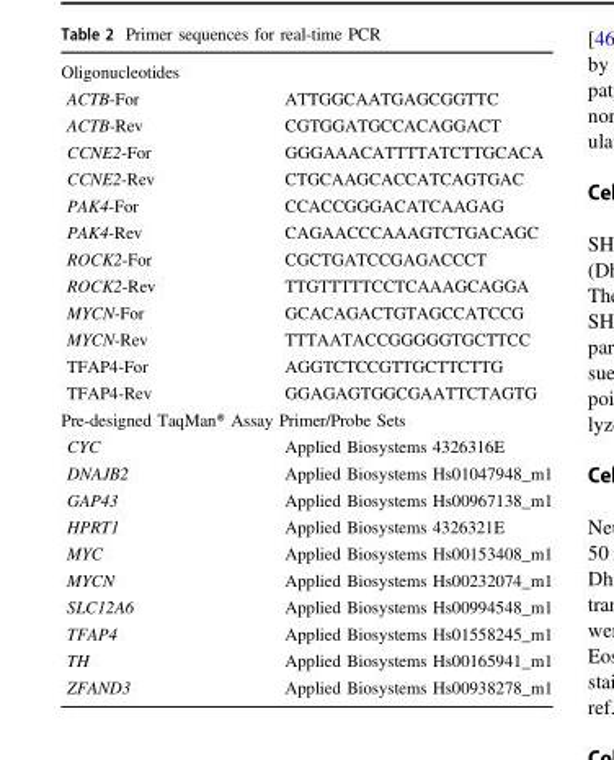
<table><tbody><tr><td colspan="2">Oligonucleotides</td></tr><tr><td>ACTB-For</td><td>ATTGGCAATGAGCGGTTC</td></tr><tr><td>ACTB-Rev</td><td>CGTGGATGCCACAGGACT</td></tr><tr><td>CCNE2-For</td><td>GGGAAACATTTTATCTTGCACA</td></tr><tr><td>CCNE2-Rev</td><td>CTGCAAGCACCATCAGTGAC</td></tr><tr><td>PAK4-For</td><td>CCACCGGGACATCAAGAG</td></tr><tr><td>PAK4-Rev</td><td>CAGAACCCAAAGTCTGACAGC</td></tr><tr><td>ROCK2-For</td><td>CGCTGATCCGAGACCCT</td></tr><tr><td>ROCK2-Rev</td><td>TTGTTTTTCCTCAAAGCAGGA</td></tr><tr><td>MYCN-For</td><td>GCACAGACTGTAGCCATCCG</td></tr><tr><td>MYCN-Rev</td><td>TTTAATACCGGGGGTGCTTCC</td></tr><tr><td>TFAP4-For</td><td>AGGTCTCCGTTGCTTCTTG</td></tr><tr><td>TFAP4-Rev</td><td>GGAGAGTGGCGAATTCTAGTG</td></tr><tr><td colspan="2">Pre-designed TaqMan® Assay Primer/Probe Sets</td></tr><tr><td>CYC</td><td>Applied Biosystems 4326316E</td></tr><tr><td>DNAJB2</td><td>Applied Biosystems Hs01047948_m1</td></tr><tr><td>GAP43</td><td>Applied Biosystems Hs00967138_m1</td></tr><tr><td>HPRT1</td><td>Applied Biosystems 4326321E</td></tr><tr><td>MYC</td><td>Applied Biosystems Hs00153408_m1</td></tr><tr><td>MYCN</td><td>Applied Biosystems Hs00232074_m1</td></tr><tr><td>SLC12A6</td><td>Applied Biosystems Hs00994548_m1</td></tr><tr><td>TFAP4</td><td>Applied Biosystems Hs01558245_m1</td></tr><tr><td>TH</td><td>Applied Biosystems Hs00165941_m1</td></tr><tr><td>ZFAND3</td><td>Applied Biosystems Hs00938278_m1</td></tr></tbody></table>